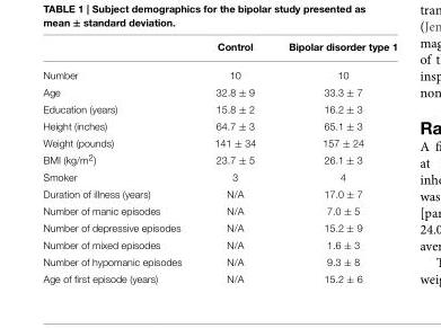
<table><thead><tr><td></td><td>Control</td><td>Bipolar disorder type 1</td></tr></thead><tbody><tr><td>Number</td><td>10</td><td>10</td></tr><tr><td>Age</td><td>32.8 ± 9</td><td>33.3 ± 7</td></tr><tr><td>Education (years)</td><td>15.8 ± 2</td><td>16.2 ± 3</td></tr><tr><td>Height (inches)</td><td>64.7 ± 3</td><td>65.1 ± 3</td></tr><tr><td>Weight (pounds)</td><td>141 ± 34</td><td>157 ± 24</td></tr><tr><td>BMI (kg/m<sup>2</sup>)</td><td>23.7 ± 5</td><td>26.1 ± 3</td></tr><tr><td>Smoker</td><td>3</td><td>4</td></tr><tr><td>Duration of illness (years)</td><td>N/A</td><td>17.0 ± 7</td></tr><tr><td>Number of manic episodes</td><td>N/A</td><td>7.0 ± 5</td></tr><tr><td>Number of depressive episodes</td><td>N/A</td><td>15.2 ± 9</td></tr><tr><td>Number of mixed episodes</td><td>N/A</td><td>1.6 ± 3</td></tr><tr><td>Number of hypomanic episodes</td><td>N/A</td><td>9.3 ± 8</td></tr><tr><td>Age of first episode (years)</td><td>N/A</td><td>15.2 ± 6</td></tr></tbody></table>